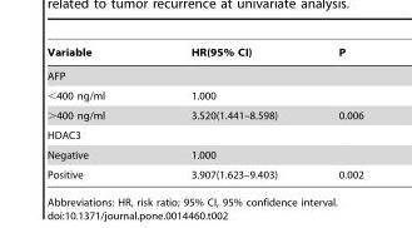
<table><thead><tr><td>Variable</td><td>HR(95% CI)</td><td>P</td></tr></thead><tbody><tr><td colspan="3">AFP</td></tr><tr><td>&lt;400 ng/ml</td><td>1.000</td><td></td></tr><tr><td>&gt;400 ng/ml</td><td>3.520(1.441–8.598)</td><td>0.006</td></tr><tr><td colspan="3">HDAC3</td></tr><tr><td>Negative</td><td>1.000</td><td></td></tr><tr><td>Positive</td><td>3.907(1.623–9.403)</td><td>0.002</td></tr></tbody></table>